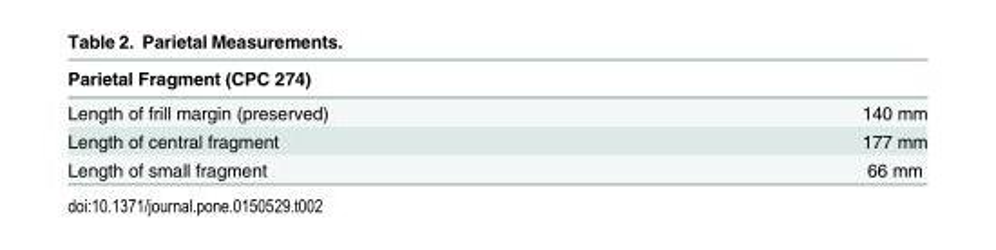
<table><thead><tr><td>Parietal Fragment (CPC 274)</td><td></td></tr></thead><tbody><tr><td>Length of frill margin (preserved)</td><td>140 mm</td></tr><tr><td>Length of central fragment</td><td>177 mm</td></tr><tr><td>Length of small fragment</td><td>66 mm</td></tr></tbody></table>